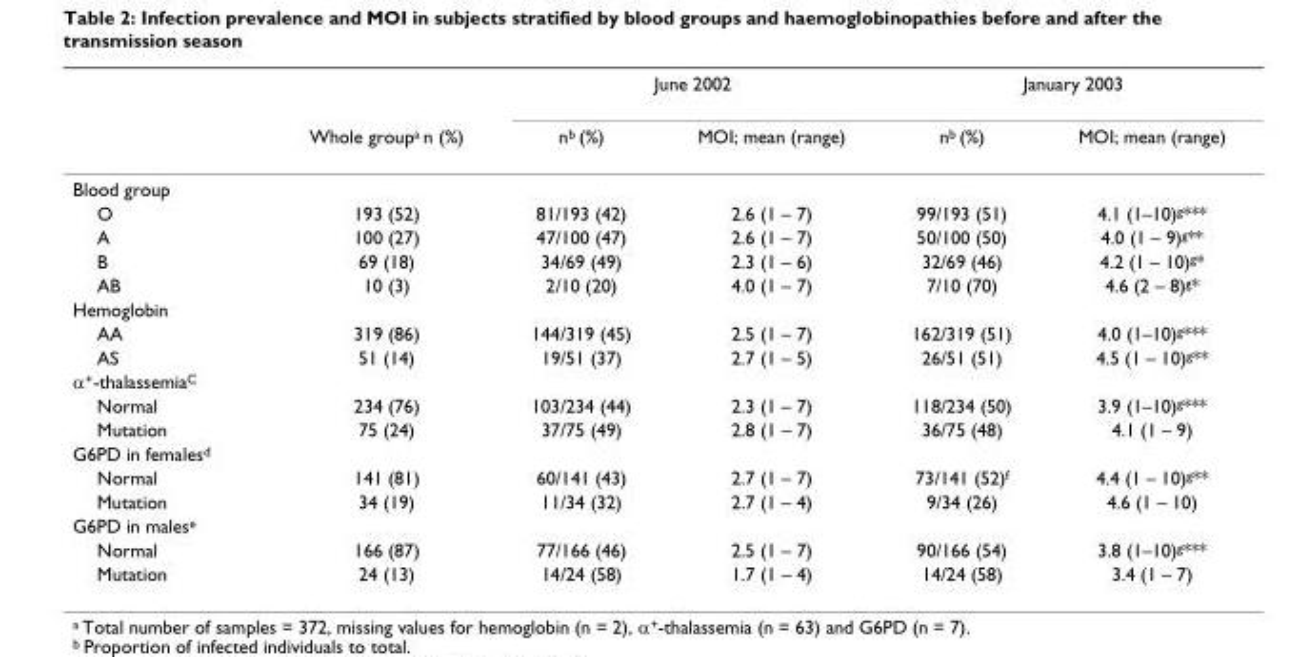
<table><thead><tr><td rowspan="2"></td><td rowspan="2">Whole group<sup>a</sup> n (%)</td><td colspan="2">June 2002</td><td colspan="2">January 2003</td></tr><tr><td>n<sup>b</sup> (%)</td><td>MOI; mean (range)</td><td>n<sup>b</sup> (%)</td><td>MOI; mean (range)</td></tr></thead><tbody><tr><td colspan="6">Blood group</td></tr><tr><td>O</td><td>193 (52)</td><td>81/193 (42)</td><td>2.6 (1 – 7)</td><td>99/193 (51)</td><td>4.1 (1–10)<sup>g</sup>***</td></tr><tr><td>A</td><td>100 (27)</td><td>47/100 (47)</td><td>2.6 (1 – 7)</td><td>50/100 (50)</td><td>4.0 (1 – 9)<sup>g</sup>**</td></tr><tr><td>B</td><td>69 (18)</td><td>34/69 (49)</td><td>2.3 (1 – 6)</td><td>32/69 (46)</td><td>4.2 (1 – 10)<sup>g</sup>*</td></tr><tr><td>AB</td><td>10 (3)</td><td>2/10 (20)</td><td>4.0 (1 – 7)</td><td>7/10 (70)</td><td>4.6 (2 – 8)<sup>g</sup>*</td></tr><tr><td colspan="6">Hemoglobin</td></tr><tr><td>AA</td><td>319 (86)</td><td>144/319 (45)</td><td>2.5 (1 – 7)</td><td>162/319 (51)</td><td>4.0 (1–10)<sup>g</sup>***</td></tr><tr><td>AS</td><td>51 (14)</td><td>19/51 (37)</td><td>2.7 (1 – 5)</td><td>26/51 (51)</td><td>4.5 (1 – 10)<sup>g</sup>**</td></tr><tr><td colspan="6">α<sup>+</sup>-thalassemia<sup>C</sup></td></tr><tr><td>Normal</td><td>234 (76)</td><td>103/234 (44)</td><td>2.3 (1 – 7)</td><td>118/234 (50)</td><td>3.9 (1–10)<sup>g</sup>***</td></tr><tr><td>Mutation</td><td>75 (24)</td><td>37/75 (49)</td><td>2.8 (1 – 7)</td><td>36/75 (48)</td><td>4.1 (1 – 9)</td></tr><tr><td colspan="6">G6PD in females<sup>d</sup></td></tr><tr><td>Normal</td><td>141 (81)</td><td>60/141 (43)</td><td>2.7 (1 – 7)</td><td>73/141 (52)<sup>f</sup></td><td>4.4 (1 – 10)<sup>g</sup>**</td></tr><tr><td>Mutation</td><td>34 (19)</td><td>11/34 (32)</td><td>2.7 (1 – 4)</td><td>9/34 (26)</td><td>4.6 (1 – 10)</td></tr><tr><td colspan="6">G6PD in males<sup>e</sup></td></tr><tr><td>Normal</td><td>166 (87)</td><td>77/166 (46)</td><td>2.5 (1 – 7)</td><td>90/166 (54)</td><td>3.8 (1–10)<sup>g</sup>***</td></tr><tr><td>Mutation</td><td>24 (13)</td><td>14/24 (58)</td><td>1.7 (1 – 4)</td><td>14/24 (58)</td><td>3.4 (1 – 7)</td></tr></tbody></table>